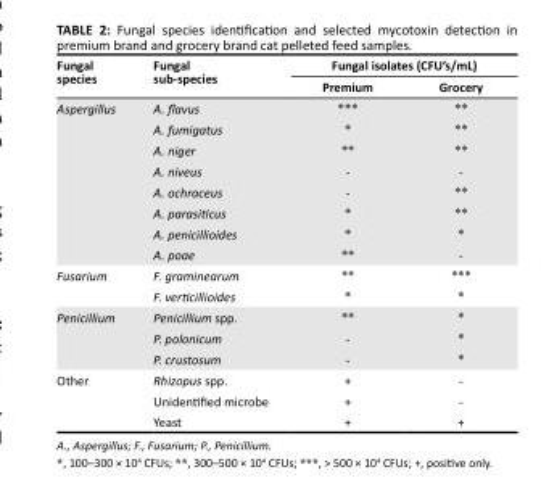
<table><thead><tr><td rowspan="2">Fungal species</td><td rowspan="2">Fungal sub-species</td><td colspan="2">Fungal isolates (CFU’s/mL)</td></tr><tr><td>Premium</td><td>Grocery</td></tr></thead><tbody><tr><td rowspan="8">Aspergillus</td><td>A. flavus</td><td>***</td><td>**</td></tr><tr><td>A. fumigatus</td><td>*</td><td>**</td></tr><tr><td>A. niger</td><td>**</td><td>**</td></tr><tr><td>A. niveus</td><td>-</td><td>-</td></tr><tr><td>A. ochraceus</td><td>-</td><td>**</td></tr><tr><td>A. parasiticus</td><td>*</td><td>**</td></tr><tr><td>A. penicillioides</td><td>*</td><td>*</td></tr><tr><td>A. poae</td><td>**</td><td>-</td></tr><tr><td rowspan="2">Fusarium</td><td>F. graminearum</td><td>**</td><td>***</td></tr><tr><td>F. verticillioides</td><td>*</td><td>*</td></tr><tr><td rowspan="3">Penicillium</td><td>Penicillium spp.</td><td>**</td><td>*</td></tr><tr><td>P. polonicum</td><td>-</td><td>*</td></tr><tr><td>P. crustosum</td><td>-</td><td>*</td></tr><tr><td rowspan="3">Other</td><td>Rhizopus spp.</td><td>+</td><td>-</td></tr><tr><td>Unidentified microbe</td><td>+</td><td>-</td></tr><tr><td>Yeast</td><td>+</td><td>+</td></tr></tbody></table>